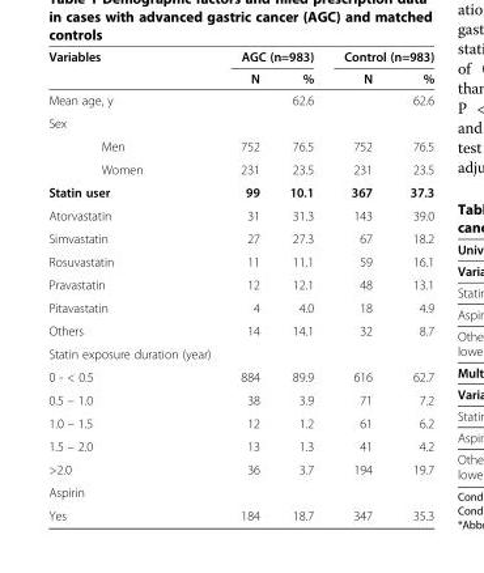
<table><thead><tr><td rowspan="2">Variables</td><td colspan="2">AGC (n=983)</td><td colspan="2">Control (n=983)</td></tr><tr><td>N</td><td>%</td><td>N</td><td>%</td></tr></thead><tbody><tr><td>Mean age, y</td><td colspan="2">62.6</td><td colspan="2">62.6</td></tr><tr><td colspan="5">Sex</td></tr><tr><td>Men</td><td>752</td><td>76.5</td><td>752</td><td>76.5</td></tr><tr><td>Women</td><td>231</td><td>23.5</td><td>231</td><td>23.5</td></tr><tr><td>Statin user</td><td>99</td><td>10.1</td><td>367</td><td>37.3</td></tr><tr><td>Atorvastatin</td><td>31</td><td>31.3</td><td>143</td><td>39.0</td></tr><tr><td>Simvastatin</td><td>27</td><td>27.3</td><td>67</td><td>18.2</td></tr><tr><td>Rosuvastatin</td><td>11</td><td>11.1</td><td>59</td><td>16.1</td></tr><tr><td>Pravastatin</td><td>12</td><td>12.1</td><td>48</td><td>13.1</td></tr><tr><td>Pitavastatin</td><td>4</td><td>4.0</td><td>18</td><td>4.9</td></tr><tr><td>Others</td><td>14</td><td>14.1</td><td>32</td><td>8.7</td></tr><tr><td colspan="5">Statin exposure duration (year)</td></tr><tr><td>0 - &lt; 0.5</td><td>884</td><td>89.9</td><td>616</td><td>62.7</td></tr><tr><td>0.5 – 1.0</td><td>38</td><td>3.9</td><td>71</td><td>7.2</td></tr><tr><td>1.0 – 1.5</td><td>12</td><td>1.2</td><td>61</td><td>6.2</td></tr><tr><td>1.5 – 2.0</td><td>13</td><td>1.3</td><td>41</td><td>4.2</td></tr><tr><td>&gt;2.0</td><td>36</td><td>3.7</td><td>194</td><td>19.7</td></tr><tr><td colspan="5">Aspirin</td></tr><tr><td>Yes</td><td>184</td><td>18.7</td><td>347</td><td>35.3</td></tr></tbody></table>